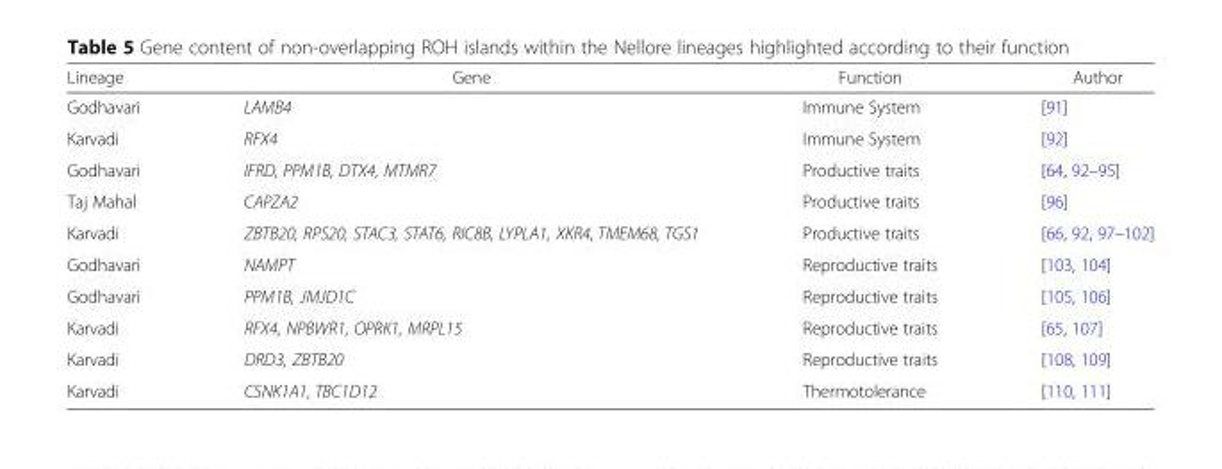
<table><thead><tr><td>Lineage</td><td>Gene</td><td>Function</td><td>Author</td></tr></thead><tbody><tr><td>Godhavari</td><td>LAMB4</td><td>Immune System</td><td>[91]</td></tr><tr><td>Karvadi</td><td>RFX4</td><td>Immune System</td><td>[92]</td></tr><tr><td>Godhavari</td><td>IFRD, PPM1B, DTX4, MTMR7</td><td>Productive traits</td><td>[64, 92–95]</td></tr><tr><td>Taj Mahal</td><td>CAPZA2</td><td>Productive traits</td><td>[96]</td></tr><tr><td>Karvadi</td><td>ZBTB20, RPS20, STAC3, STAT6, RIC8B, LYPLA1, XKR4, TMEM68, TGS1</td><td>Productive traits</td><td>[66, 92, 97–102]</td></tr><tr><td>Godhavari</td><td>NAMPT</td><td>Reproductive traits</td><td>[103, 104]</td></tr><tr><td>Godhavari</td><td>PPM1B, JMJD1C</td><td>Reproductive traits</td><td>[105, 106]</td></tr><tr><td>Karvadi</td><td>RFX4, NPBWR1, OPRK1, MRPL15</td><td>Reproductive traits</td><td>[65, 107]</td></tr><tr><td>Karvadi</td><td>DRD3, ZBTB20</td><td>Reproductive traits</td><td>[108, 109]</td></tr><tr><td>Karvadi</td><td>CSNK1A1, TBC1D12</td><td>Thermotolerance</td><td>[110, 111]</td></tr></tbody></table>